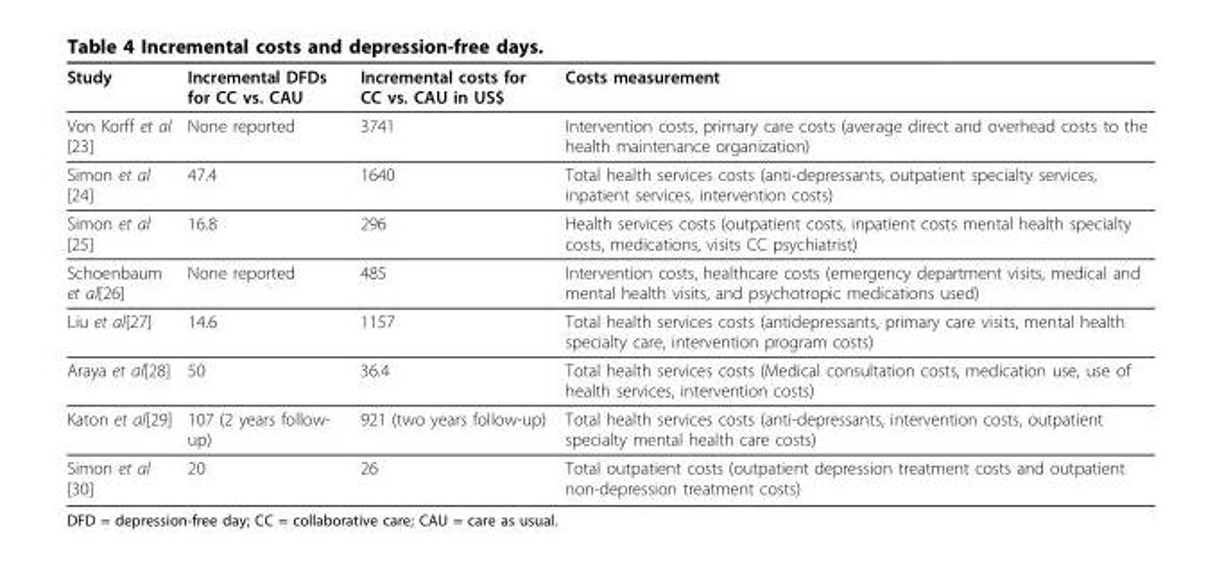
<table><thead><tr><td>Study</td><td>Incremental DFDs for CC vs. CAU</td><td>Incremental costs for CC vs. CAU in US$</td><td>Costs measurement</td></tr></thead><tbody><tr><td>Von Korff et al [23]</td><td>None reported</td><td>3741</td><td>Intervention costs, primary care costs (average direct and overhead costs to the health maintenance organization)</td></tr><tr><td>Simon et al [24]</td><td>47.4</td><td>1640</td><td>Total health services costs (anti-depressants, outpatient specialty services, inpatient services, intervention costs)</td></tr><tr><td>Simon et al [25]</td><td>16.8</td><td>296</td><td>Health services costs (outpatient costs, inpatient costs mental health specialty costs, medications, visits CC psychiatrist)</td></tr><tr><td>Schoenbaum et al[26]</td><td>None reported</td><td>485</td><td>Intervention costs, healthcare costs (emergency department visits, medical and mental health visits, and psychotropic medications used)</td></tr><tr><td>Liu et al[27]</td><td>14.6</td><td>1157</td><td>Total health services costs (antidepressants, primary care visits, mental health specialty care, intervention program costs)</td></tr><tr><td>Araya et al[28]</td><td>50</td><td>36.4</td><td>Total health services costs (Medical consultation costs, medication use, use of health services, intervention costs)</td></tr><tr><td>Katon et al[29]</td><td>107 (2 years follow- up)</td><td>921 (two years follow-up)</td><td>Total health services costs (anti-depressants, intervention costs, outpatient specialty mental health care costs)</td></tr><tr><td>Simon et al [30]</td><td>20</td><td>26</td><td>Total outpatient costs (outpatient depression treatment costs and outpatient non-depression treatment costs)</td></tr></tbody></table>